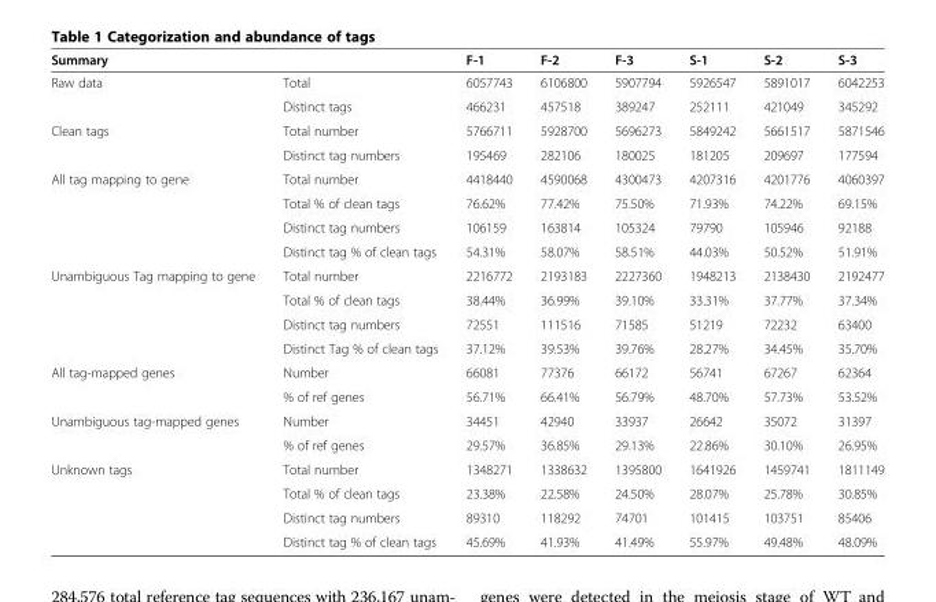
<table><thead><tr><td>Summary</td><td></td><td>F-1</td><td>F-2</td><td>F-3</td><td>S-1</td><td>S-2</td><td>S-3</td></tr></thead><tbody><tr><td rowspan="2">Raw data</td><td>Total</td><td>6057743</td><td>6106800</td><td>5907794</td><td>5926547</td><td>5891017</td><td>6042253</td></tr><tr><td>Distinct tags</td><td>466231</td><td>457518</td><td>389247</td><td>252111</td><td>421049</td><td>345292</td></tr><tr><td rowspan="2">Clean tags</td><td>Total number</td><td>5766711</td><td>5928700</td><td>5696273</td><td>5849242</td><td>5661517</td><td>5871546</td></tr><tr><td>Distinct tag numbers</td><td>195469</td><td>282106</td><td>180025</td><td>181205</td><td>209697</td><td>177594</td></tr><tr><td rowspan="4">All tag mapping to gene</td><td>Total number</td><td>4418440</td><td>4590068</td><td>4300473</td><td>4207316</td><td>4201776</td><td>4060397</td></tr><tr><td>Total % of clean tags</td><td>76.62%</td><td>77.42%</td><td>75.50%</td><td>71.93%</td><td>74.22%</td><td>69.15%</td></tr><tr><td>Distinct tag numbers</td><td>106159</td><td>163814</td><td>105324</td><td>79790</td><td>105946</td><td>92188</td></tr><tr><td>Distinct tag % of clean tags</td><td>54.31%</td><td>58.07%</td><td>58.51%</td><td>44.03%</td><td>50.52%</td><td>51.91%</td></tr><tr><td rowspan="4">Unambiguous Tag mapping to gene</td><td>Total number</td><td>2216772</td><td>2193183</td><td>2227360</td><td>1948213</td><td>2138430</td><td>2192477</td></tr><tr><td>Total % of clean tags</td><td>38.44%</td><td>36.99%</td><td>39.10%</td><td>33.31%</td><td>37.77%</td><td>37.34%</td></tr><tr><td>Distinct tag numbers</td><td>72551</td><td>111516</td><td>71585</td><td>51219</td><td>72232</td><td>63400</td></tr><tr><td>Distinct Tag % of clean tags</td><td>37.12%</td><td>39.53%</td><td>39.76%</td><td>28.27%</td><td>34.45%</td><td>35.70%</td></tr><tr><td rowspan="2">All tag-mapped genes</td><td>Number</td><td>66081</td><td>77376</td><td>66172</td><td>56741</td><td>67267</td><td>62364</td></tr><tr><td>% of ref genes</td><td>56.71%</td><td>66.41%</td><td>56.79%</td><td>48.70%</td><td>57.73%</td><td>53.52%</td></tr><tr><td rowspan="2">Unambiguous tag-mapped genes</td><td>Number</td><td>34451</td><td>42940</td><td>33937</td><td>26642</td><td>35072</td><td>31397</td></tr><tr><td>% of ref genes</td><td>29.57%</td><td>36.85%</td><td>29.13%</td><td>22.86%</td><td>30.10%</td><td>26.95%</td></tr><tr><td rowspan="4">Unknown tags</td><td>Total number</td><td>1348271</td><td>1338632</td><td>1395800</td><td>1641926</td><td>1459741</td><td>1811149</td></tr><tr><td>Total % of clean tags</td><td>23.38%</td><td>22.58%</td><td>24.50%</td><td>28.07%</td><td>25.78%</td><td>30.85%</td></tr><tr><td>Distinct tag numbers</td><td>89310</td><td>118292</td><td>74701</td><td>101415</td><td>103751</td><td>85406</td></tr><tr><td>Distinct tag % of clean tags</td><td>45.69%</td><td>41.93%</td><td>41.49%</td><td>55.97%</td><td>49.48%</td><td>48.09%</td></tr></tbody></table>